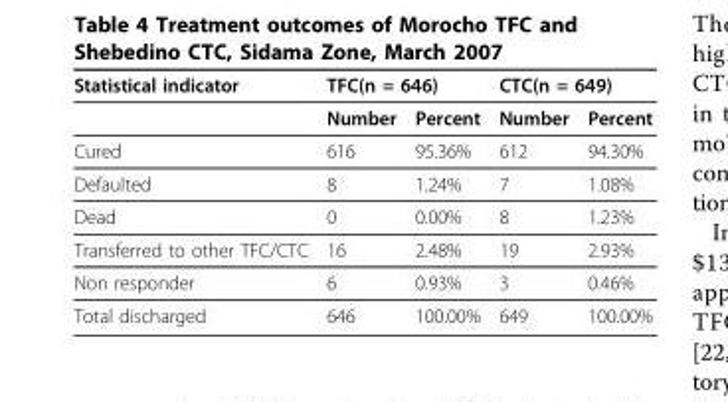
<table><thead><tr><td rowspan="2">Statistical indicator</td><td colspan="2">TFC(n = 646)</td><td colspan="2">CTC(n = 649)</td></tr><tr><td>Number</td><td>Percent</td><td>Number</td><td>Percent</td></tr></thead><tbody><tr><td>Cured</td><td>616</td><td>95.36%</td><td>612</td><td>94.30%</td></tr><tr><td>Defaulted</td><td>8</td><td>1.24%</td><td>7</td><td>1.08%</td></tr><tr><td>Dead</td><td>0</td><td>0.00%</td><td>8</td><td>1.23%</td></tr><tr><td>Transferred to other TFC/CTC</td><td>16</td><td>2.48%</td><td>19</td><td>2.93%</td></tr><tr><td>Non responder</td><td>6</td><td>0.93%</td><td>3</td><td>0.46%</td></tr><tr><td>Total discharged</td><td>646</td><td>100.00%</td><td>649</td><td>100.00%</td></tr></tbody></table>